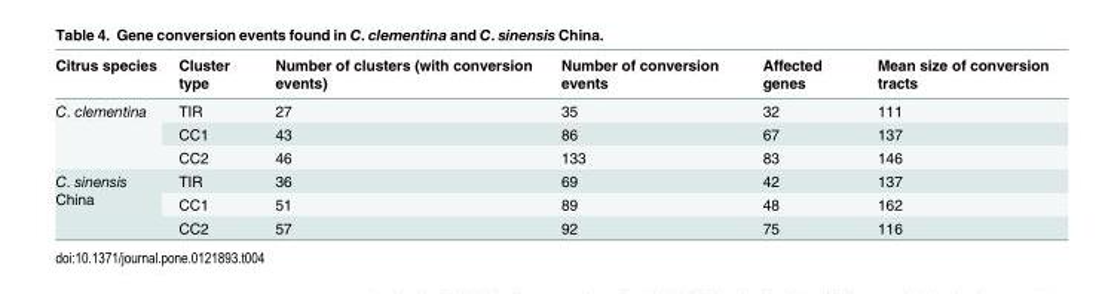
<table><thead><tr><td>Citrus species</td><td>Cluster type</td><td>Number of clusters (with conversion events)</td><td>Number of conversion events</td><td>Affected genes</td><td>Mean size of conversion tracts</td></tr></thead><tbody><tr><td rowspan="3">C. clementina</td><td>TIR</td><td>27</td><td>35</td><td>32</td><td>111</td></tr><tr><td>CC1</td><td>43</td><td>86</td><td>67</td><td>137</td></tr><tr><td>CC2</td><td>46</td><td>133</td><td>83</td><td>146</td></tr><tr><td rowspan="3">C. sinensis China</td><td>TIR</td><td>36</td><td>69</td><td>42</td><td>137</td></tr><tr><td>CC1</td><td>51</td><td>89</td><td>48</td><td>162</td></tr><tr><td>CC2</td><td>57</td><td>92</td><td>75</td><td>116</td></tr></tbody></table>